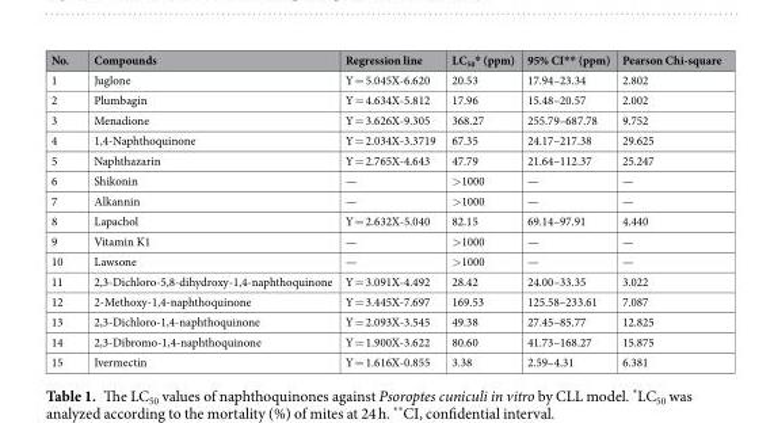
<table><thead><tr><td>No.</td><td>Compounds</td><td>Regression line</td><td>LC<sub>50</sub>* (ppm)</td><td>95% CI** (ppm)</td><td>Pearson Chi-square</td></tr></thead><tbody><tr><td>1</td><td>Juglone</td><td>Y = 5.045X-6.620</td><td>20.53</td><td>17.94–23.34</td><td>2.802</td></tr><tr><td>2</td><td>Plumbagin</td><td>Y = 4.634X-5.812</td><td>17.96</td><td>15.48–20.57</td><td>2.002</td></tr><tr><td>3</td><td>Menadione</td><td>Y = 3.626X-9.305</td><td>368.27</td><td>255.79–687.78</td><td>9.752</td></tr><tr><td>4</td><td>1,4-Naphthoquinone</td><td>Y = 2.034X-3.3719</td><td>67.35</td><td>24.17–217.38</td><td>29.625</td></tr><tr><td>5</td><td>Naphthazarin</td><td>Y = 2.765X-4.643</td><td>47.79</td><td>21.64–112.37</td><td>25.247</td></tr><tr><td>6</td><td>Shikonin</td><td>—</td><td>&gt;1000</td><td>—</td><td>—</td></tr><tr><td>7</td><td>Alkannin</td><td>—</td><td>&gt;1000</td><td>—</td><td>—</td></tr><tr><td>8</td><td>Lapachol</td><td>Y = 2.632X-5.040</td><td>82.15</td><td>69.14–97.91</td><td>4.440</td></tr><tr><td>9</td><td>Vitamin K1</td><td>—</td><td>&gt;1000</td><td>—</td><td>—</td></tr><tr><td>10</td><td>Lawsone</td><td>—</td><td>&gt;1000</td><td>—</td><td>—</td></tr><tr><td>11</td><td>2,3-Dichloro-5,8-dihydroxy-1,4-naphthoquinone</td><td>Y = 3.091X-4.492</td><td>28.42</td><td>24.00–33.35</td><td>3.022</td></tr><tr><td>12</td><td>2-Methoxy-1,4-naphthoquinone</td><td>Y = 3.445X-7.697</td><td>169.53</td><td>125.58–233.61</td><td>7.087</td></tr><tr><td>13</td><td>2,3-Dichloro-1,4-naphthoquinone</td><td>Y = 2.093X-3.545</td><td>49.38</td><td>27.45–85.77</td><td>12.825</td></tr><tr><td>14</td><td>2,3-Dibromo-1,4-naphthoquinone</td><td>Y = 1.900X-3.622</td><td>80.60</td><td>41.73–168.27</td><td>15.875</td></tr><tr><td>15</td><td>Ivermectin</td><td>Y = 1.616X-0.855</td><td>3.38</td><td>2.59–4.31</td><td>6.381</td></tr></tbody></table>